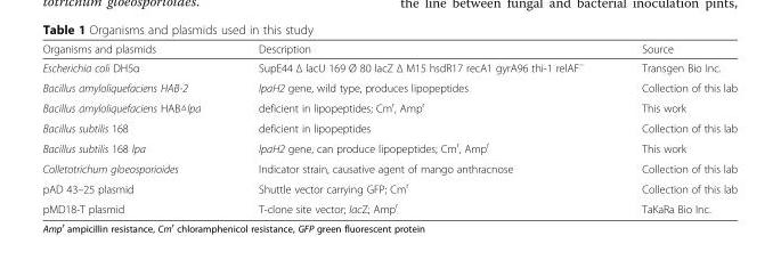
<table><thead><tr><td>Organisms and plasmids</td><td>Description</td><td>Source</td></tr></thead><tbody><tr><td>Escherichia coli DH5α</td><td>SupE44 Δ lacU 169 Ø 80 lacZ Δ M15 hsdR17 recA1 gyrA96 thi-1 relAF−</td><td>Transgen Bio Inc.</td></tr><tr><td>Bacillus amyloliquefaciens HAB-2</td><td>lpaH2 gene, wild type, produces lipopeptides</td><td>Collection of this lab</td></tr><tr><td>Bacillus amyloliquefaciens HAB△lpa</td><td>deficient in lipopeptides; Cm<sup>r</sup>, Amp<sup>r</sup></td><td>This work</td></tr><tr><td>Bacillus subtilis 168</td><td>deficient in lipopeptides</td><td>Collection of this lab</td></tr><tr><td>Bacillus subtilis 168 lpa</td><td>lpaH2 gene, can produce lipopeptides; Cm<sup>r</sup>, Amp<sup>r</sup></td><td>This work</td></tr><tr><td>Colletotrichum gloeosporioides</td><td>Indicator strain, causative agent of mango anthracnose</td><td>Collection of this lab</td></tr><tr><td>pAD 43–25 plasmid</td><td>Shuttle vector carrying GFP; Cm<sup>r</sup></td><td>Collection of this lab</td></tr><tr><td>pMD18-T plasmid</td><td>T-clone site vector; lacZ; Amp<sup>r</sup></td><td>TaKaRa Bio Inc.</td></tr></tbody></table>